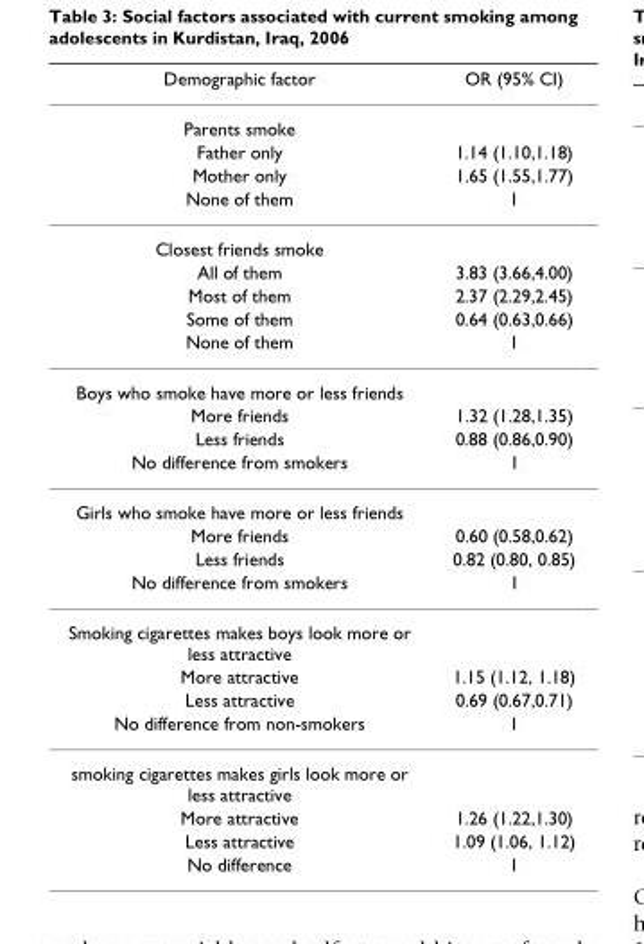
<table><thead><tr><td>Demographic factor</td><td>OR (95% CI)</td></tr></thead><tbody><tr><td colspan="2">Parents smoke</td></tr><tr><td>Father only</td><td>1.14 (1.10,1.18)</td></tr><tr><td>Mother only</td><td>1.65 (1.55,1.77)</td></tr><tr><td>None of them</td><td>1</td></tr><tr><td colspan="2">Closest friends smoke</td></tr><tr><td>All of them</td><td>3.83 (3.66,4.00)</td></tr><tr><td>Most of them</td><td>2.37 (2.29,2.45)</td></tr><tr><td>Some of them</td><td>0.64 (0.63,0.66)</td></tr><tr><td>None of them</td><td>1</td></tr><tr><td colspan="2">Boys who smoke have more or less friends</td></tr><tr><td>More friends</td><td>1.32 (1.28,1.35)</td></tr><tr><td>Less friends</td><td>0.88 (0.86,0.90)</td></tr><tr><td>No difference from smokers</td><td>1</td></tr><tr><td colspan="2">Girls who smoke have more or less friends</td></tr><tr><td>More friends</td><td>0.60 (0.58,0.62)</td></tr><tr><td>Less friends</td><td>0.82 (0.80, 0.85)</td></tr><tr><td>No difference from smokers</td><td>1</td></tr><tr><td colspan="2">Smoking cigarettes makes boys look more or less attractive</td></tr><tr><td>More attractive</td><td>1.15 (1.12, 1.18)</td></tr><tr><td>Less attractive</td><td>0.69 (0.67,0.71)</td></tr><tr><td>No difference from non-smokers</td><td>1</td></tr><tr><td colspan="2">smoking cigarettes makes girls look more or less attractive</td></tr><tr><td>More attractive</td><td>1.26 (1.22,1.30)</td></tr><tr><td>Less attractive</td><td>1.09 (1.06, 1.12)</td></tr><tr><td>No difference</td><td>1</td></tr></tbody></table>